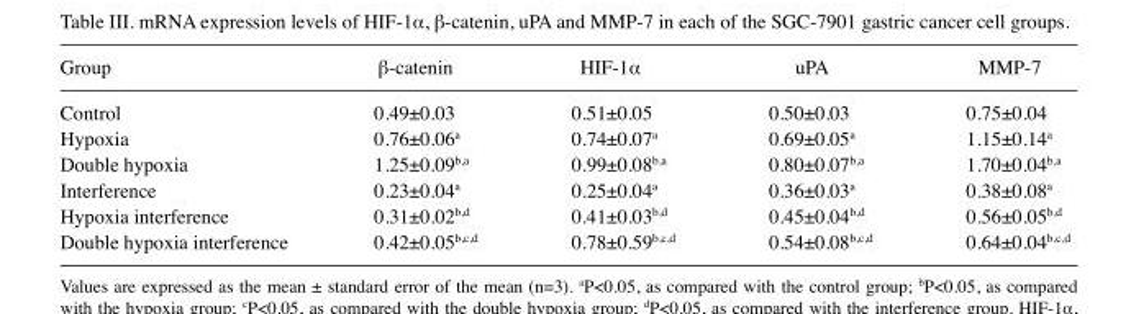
<table><thead><tr><td>Group</td><td>β-catenin</td><td>HIF-1α</td><td>uPA</td><td>MMP-7</td></tr></thead><tbody><tr><td>Control</td><td>0.49±0.03</td><td>0.51±0.05</td><td>0.50±0.03</td><td>0.75±0.04</td></tr><tr><td>Hypoxia</td><td>0.76±0.06<sup>a</sup></td><td>0.74±0.07<sup>a</sup></td><td>0.69±0.05<sup>a</sup></td><td>1.15±0.14<sup>a</sup></td></tr><tr><td>Double hypoxia</td><td>1.25±0.09<sup>b</sup>,<sup>a</sup></td><td>0.99±0.08<sup>b</sup>,<sup>a</sup></td><td>0.80±0.07<sup>b</sup>,<sup>a</sup></td><td>1.70±0.04<sup>b</sup>,<sup>a</sup></td></tr><tr><td>Interference</td><td>0.23±0.04<sup>a</sup></td><td>0.25±0.04<sup>a</sup></td><td>0.36±0.03<sup>a</sup></td><td>0.38±0.08<sup>a</sup></td></tr><tr><td>Hypoxia interference</td><td>0.31±0.02<sup>b</sup>,<sup>d</sup></td><td>0.41±0.03<sup>b</sup>,<sup>d</sup></td><td>0.45±0.04<sup>b</sup>,<sup>d</sup></td><td>0.56±0.05<sup>b</sup>,<sup>d</sup></td></tr><tr><td>Double hypoxia interference</td><td>0.42±0.05<sup>b</sup>,<sup>c</sup>,<sup>d</sup></td><td>0.78±0.59<sup>b</sup>,<sup>c</sup>,<sup>d</sup></td><td>0.54±0.08<sup>b</sup>,<sup>c</sup>,<sup>d</sup></td><td>0.64±0.04<sup>b</sup>,<sup>c</sup>,<sup>d</sup></td></tr></tbody></table>